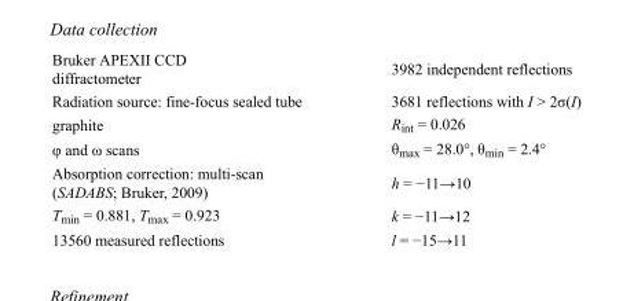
<table><tbody><tr><td>Bruker APEXII CCD diffractometer</td><td>3982 independent reflections</td></tr><tr><td>Radiation source: fine-focus sealed tube</td><td>3681 reflections with I &gt; 2σ(I)</td></tr><tr><td>graphite</td><td>R<sub>int</sub> = 0.026</td></tr><tr><td>φ and ω scans</td><td>θ<sub>max</sub> = 28.0°, θ<sub>min</sub> = 2.4°</td></tr><tr><td>Absorption correction: multi-scan (SADABS; Bruker, 2009)</td><td>h = −11→10</td></tr><tr><td>T<sub>min</sub> = 0.881, T<sub>max</sub> = 0.923</td><td>k = −11→12</td></tr><tr><td>13560 measured reflections</td><td>l = −15→11</td></tr></tbody></table>